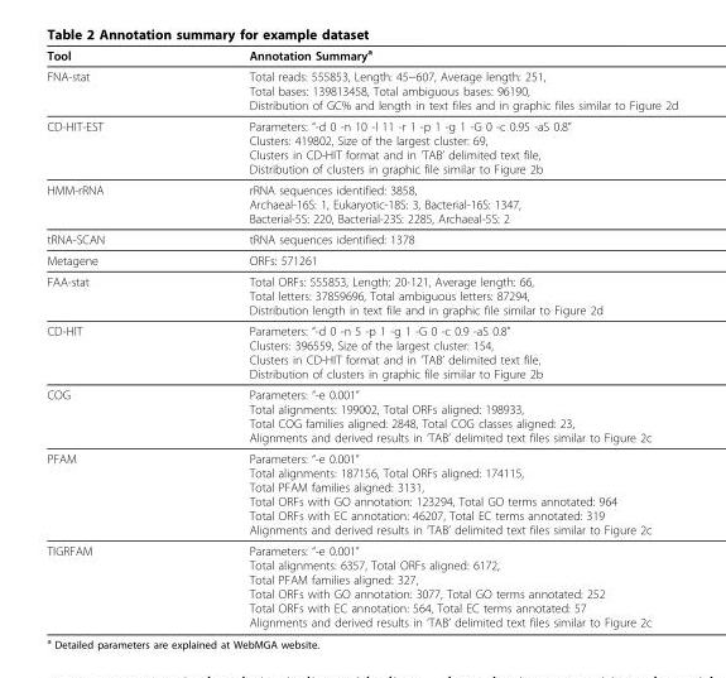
<table><thead><tr><td>Tool</td><td>Annotation Summarya</td></tr></thead><tbody><tr><td>FNA-stat</td><td>Total reads: 555853, Length: 45~607, Average length: 251, Total bases: 139813458, Total ambiguous bases: 96190, Distribution of GC% and length in text files and in graphic files similar to Figure 2d</td></tr><tr><td>CD-HIT-EST</td><td>Parameters: “-d 0 -n 10 -l 11 -r 1 -p 1 -g 1 -G 0 -c 0.95 -aS 0.8” Clusters: 419802, Size of the largest cluster: 69, Clusters in CD-HIT format and in ‘TAB’ delimited text file, Distribution of clusters in graphic file similar to Figure 2b</td></tr><tr><td>HMM-rRNA</td><td>rRNA sequences identified: 3858, Archaeal-16S: 1, Eukaryotic-18S: 3, Bacterial-16S: 1347, Bacterial-5S: 220, Bacterial-23S: 2285, Archaeal-5S: 2</td></tr><tr><td>tRNA-SCAN</td><td>tRNA sequences identified: 1378</td></tr><tr><td>Metagene</td><td>ORFs: 571261</td></tr><tr><td>FAA-stat</td><td>Total ORFs: 555853, Length: 20-121, Average length: 66, Total letters: 37859696, Total ambiguous letters: 87294, Distribution length in text file and in graphic file similar to Figure 2d</td></tr><tr><td>CD-HIT</td><td>Parameters: “-d 0 -n 5 -p 1 -g 1 -G 0 -c 0.9 -aS 0.8” Clusters: 396559, Size of the largest cluster: 154, Clusters in CD-HIT format and in ‘TAB’ delimited text file, Distribution of clusters in graphic file similar to Figure 2b</td></tr><tr><td>COG</td><td>Parameters: “-e 0.001” Total alignments: 199002, Total ORFs aligned: 198933, Total COG families aligned: 2848, Total COG classes aligned: 23, Alignments and derived results in ‘TAB’ delimited text files similar to Figure 2c</td></tr><tr><td>PFAM</td><td>Parameters: “-e 0.001” Total alignments: 187156, Total ORFs aligned: 174115, Total PFAM families aligned: 3131, Total ORFs with GO annotation: 123294, Total GO terms annotated: 964 Total ORFs with EC annotation: 46207, Total EC terms annotated: 319 Alignments and derived results in ‘TAB’ delimited text files similar to Figure 2c</td></tr><tr><td>TIGRFAM</td><td>Parameters: “-e 0.001” Total alignments: 6357, Total ORFs aligned: 6172, Total PFAM families aligned: 327, Total ORFs with GO annotation: 3077, Total GO terms annotated: 252 Total ORFs with EC annotation: 564, Total EC terms annotated: 57 Alignments and derived results in ‘TAB’ delimited text files similar to Figure 2c</td></tr></tbody></table>